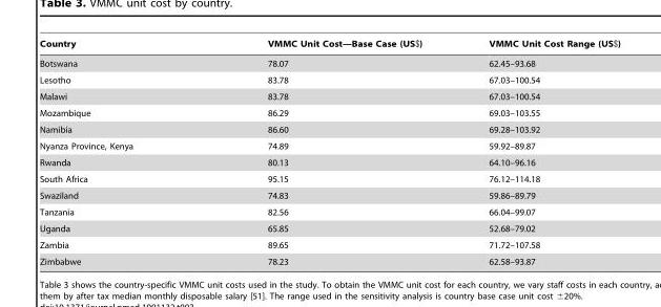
<table><thead><tr><td>Country</td><td>VMMC Unit Cost—Base Case (US$)</td><td>VMMC Unit Cost Range (US$)</td></tr></thead><tbody><tr><td>Botswana</td><td>78.07</td><td>62.45–93.68</td></tr><tr><td>Lesotho</td><td>83.78</td><td>67.03–100.54</td></tr><tr><td>Malawi</td><td>83.78</td><td>67.03–100.54</td></tr><tr><td>Mozambique</td><td>86.29</td><td>69.03–103.55</td></tr><tr><td>Namibia</td><td>86.60</td><td>69.28–103.92</td></tr><tr><td>Nyanza Province, Kenya</td><td>74.89</td><td>59.92–89.87</td></tr><tr><td>Rwanda</td><td>80.13</td><td>64.10–96.16</td></tr><tr><td>South Africa</td><td>95.15</td><td>76.12–114.18</td></tr><tr><td>Swaziland</td><td>74.83</td><td>59.86–89.79</td></tr><tr><td>Tanzania</td><td>82.56</td><td>66.04–99.07</td></tr><tr><td>Uganda</td><td>65.85</td><td>52.68–79.02</td></tr><tr><td>Zambia</td><td>89.65</td><td>71.72–107.58</td></tr><tr><td>Zimbabwe</td><td>78.23</td><td>62.58–93.87</td></tr></tbody></table>